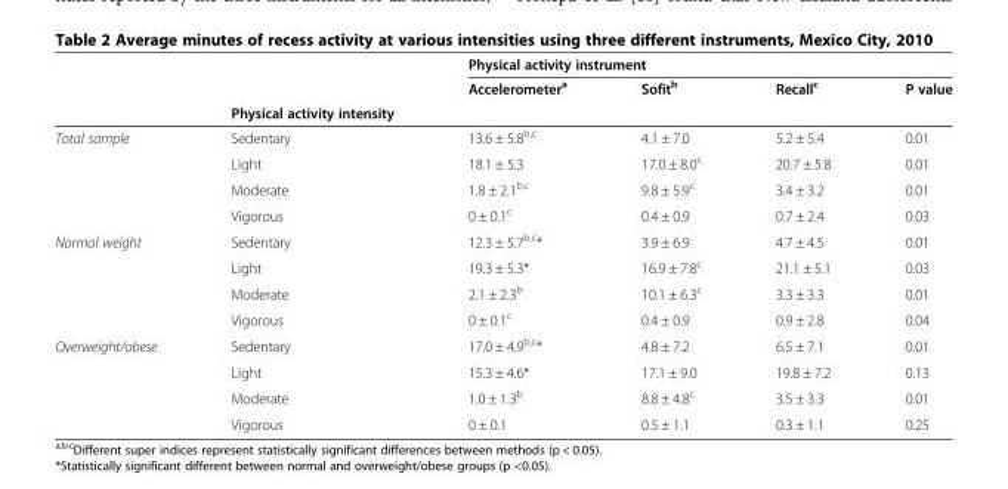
<table><thead><tr><td rowspan="3"></td><td rowspan="3">Physical activity intensity</td><td colspan="4">Physical activity instrument</td></tr><tr><td rowspan="2">Accelerometer<sup>a</sup></td><td rowspan="2">Sofit<sup>b</sup></td><td rowspan="2">Recall<sup>c</sup></td><td rowspan="2">P value</td></tr><tr></tr></thead><tbody><tr><td rowspan="4">Total sample</td><td>Sedentary</td><td>13.6 ± 5.8<sup>b,c</sup></td><td>4.1 ± 7.0</td><td>5.2 ± 5.4</td><td>0.01</td></tr><tr><td>Light</td><td>18.1 ± 5.3</td><td>17.0 ± 8.0<sup>c</sup></td><td>20.7 ± 5.8</td><td>0.01</td></tr><tr><td>Moderate</td><td>1.8 ± 2.1<sup>b,c</sup></td><td>9.8 ± 5.9<sup>c</sup></td><td>3.4 ± 3.2</td><td>0.01</td></tr><tr><td>Vigorous</td><td>0 ± 0.1<sup>c</sup></td><td>0.4 ± 0.9</td><td>0.7 ± 2.4</td><td>0.03</td></tr><tr><td rowspan="4">Normal weight</td><td>Sedentary</td><td>12.3 ± 5.7<sup>b,c</sup>*</td><td>3.9 ± 6.9</td><td>4.7 ± 4.5</td><td>0.01</td></tr><tr><td>Light</td><td>19.3 ± 5.3*</td><td>16.9 ± 7.8<sup>c</sup></td><td>21.1 ± 5.1</td><td>0.03</td></tr><tr><td>Moderate</td><td>2.1 ± 2.3<sup>b</sup></td><td>10.1 ± 6.3<sup>c</sup></td><td>3.3 ± 3.3</td><td>0.01</td></tr><tr><td>Vigorous</td><td>0 ± 0.1<sup>c</sup></td><td>0.4 ± 0.9</td><td>0.9 ± 2.8</td><td>0.04</td></tr><tr><td rowspan="4">Overweight/obese</td><td>Sedentary</td><td>17.0 ± 4.9<sup>b,c</sup>*</td><td>4.8 ± 7.2</td><td>6.5 ± 7.1</td><td>0.01</td></tr><tr><td>Light</td><td>15.3 ± 4.6*</td><td>17.1 ± 9.0</td><td>19.8 ± 7.2</td><td>0.13</td></tr><tr><td>Moderate</td><td>1.0 ± 1.3<sup>b</sup></td><td>8.8 ± 4.8<sup>c</sup></td><td>3.5 ± 3.3</td><td>0.01</td></tr><tr><td>Vigorous</td><td>0 ± 0.1</td><td>0.5 ± 1.1</td><td>0.3 ± 1.1</td><td>0.25</td></tr></tbody></table>